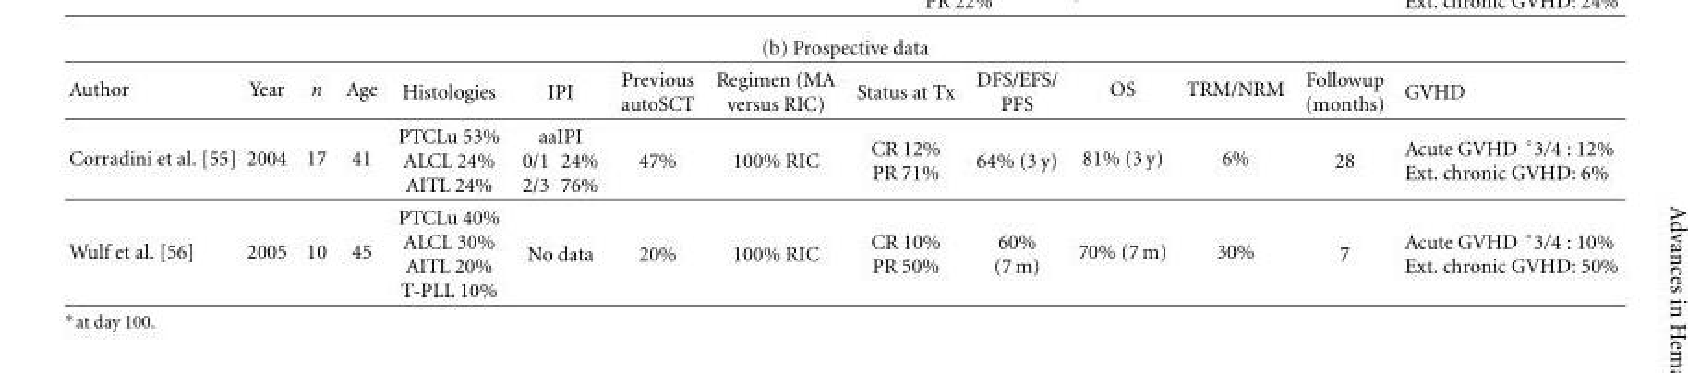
<table><thead><tr><td>Author</td><td>Year</td><td>n</td><td>Age</td><td>Histologies</td><td>IPI</td><td>Previous autoSCT</td><td>Regimen (MA versus RIC)</td><td>Status at Tx</td><td>DFS/EFS/ PFS</td><td>OS</td><td>TRM/NRM</td><td>Followup (months)</td><td>GVHD</td></tr></thead><tbody><tr><td>Corradini et al. [55]</td><td>2004</td><td>17</td><td>41</td><td>PTCLu 53% ALCL 24% AITL 24%</td><td>aaIPI 0/1 24% 2/3 76%</td><td>47%</td><td>100% RIC</td><td>CR 12% PR 71%</td><td>64% (3 y)</td><td>81% (3 y)</td><td>6%</td><td>28</td><td>Acute GVHD ◦3/4 : 12% Ext. chronic GVHD: 6%</td></tr><tr><td>Wulf et al. [56]</td><td>2005</td><td>10</td><td>45</td><td>PTCLu 40% ALCL 30% AITL 20% T-PLL 10%</td><td>No data</td><td>20%</td><td>100% RIC</td><td>CR 10% PR 50%</td><td>60% (7 m)</td><td>70% (7 m)</td><td>30%</td><td>7</td><td>Acute GVHD ◦3/4 : 10% Ext. chronic GVHD: 50%</td></tr></tbody></table>